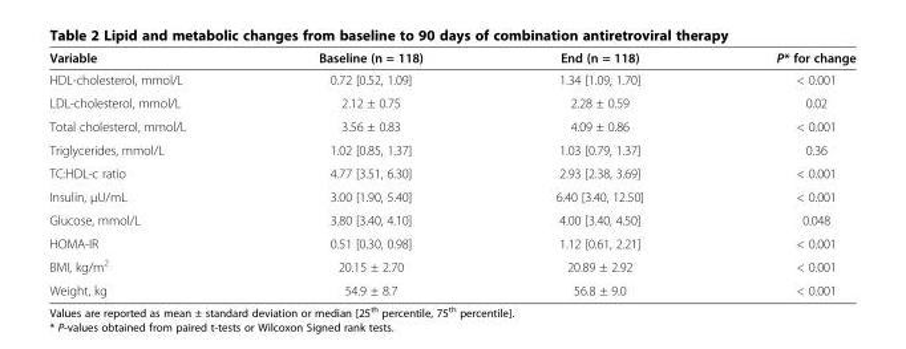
<table><thead><tr><td>Variable</td><td>Baseline (n = 118)</td><td>End (n = 118)</td><td>P* for change</td></tr></thead><tbody><tr><td>HDL-cholesterol, mmol/L</td><td>0.72 [0.52, 1.09]</td><td>1.34 [1.09, 1.70]</td><td>&lt; 0.001</td></tr><tr><td>LDL-cholesterol, mmol/L</td><td>2.12 ± 0.75</td><td>2.28 ± 0.59</td><td>0.02</td></tr><tr><td>Total cholesterol, mmol/L</td><td>3.56 ± 0.83</td><td>4.09 ± 0.86</td><td>&lt; 0.001</td></tr><tr><td>Triglycerides, mmol/L</td><td>1.02 [0.85, 1.37]</td><td>1.03 [0.79, 1.37]</td><td>0.36</td></tr><tr><td>TC:HDL-c ratio</td><td>4.77 [3.51, 6.30]</td><td>2.93 [2.38, 3.69]</td><td>&lt; 0.001</td></tr><tr><td>Insulin, μU/mL</td><td>3.00 [1.90, 5.40]</td><td>6.40 [3.40, 12.50]</td><td>&lt; 0.001</td></tr><tr><td>Glucose, mmol/L</td><td>3.80 [3.40, 4.10]</td><td>4.00 [3.40, 4.50]</td><td>0.048</td></tr><tr><td>HOMA-IR</td><td>0.51 [0.30, 0.98]</td><td>1.12 [0.61, 2.21]</td><td>&lt; 0.001</td></tr><tr><td>BMI, kg/m<sup>2</sup></td><td>20.15 ± 2.70</td><td>20.89 ± 2.92</td><td>&lt; 0.001</td></tr><tr><td>Weight, kg</td><td>54.9 ± 8.7</td><td>56.8 ± 9.0</td><td>&lt; 0.001</td></tr></tbody></table>